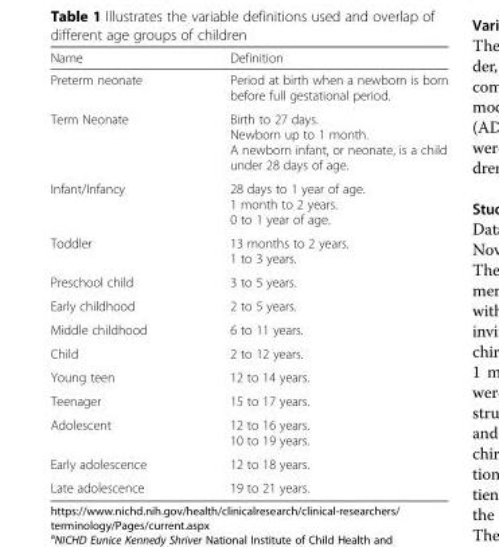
<table><thead><tr><td>Name</td><td>Definition</td></tr></thead><tbody><tr><td>Preterm neonate</td><td>Period at birth when a newborn is born before full gestational period.</td></tr><tr><td>Term Neonate</td><td>Birth to 27 days. Newborn up to 1 month. A newborn infant, or neonate, is a child under 28 days of age.</td></tr><tr><td>Infant/Infancy</td><td>28 days to 1 year of age. 1 month to 2 years. 0 to 1 year of age.</td></tr><tr><td>Toddler</td><td>13 months to 2 years. 1 to 3 years.</td></tr><tr><td>Preschool child</td><td>3 to 5 years.</td></tr><tr><td>Early childhood</td><td>2 to 5 years.</td></tr><tr><td>Middle childhood</td><td>6 to 11 years.</td></tr><tr><td>Child</td><td>2 to 12 years.</td></tr><tr><td>Young teen</td><td>12 to 14 years.</td></tr><tr><td>Teenager</td><td>15 to 17 years.</td></tr><tr><td>Adolescent</td><td>12 to 16 years. 10 to 19 years.</td></tr><tr><td>Early adolescence</td><td>12 to 18 years.</td></tr><tr><td>Late adolescence</td><td>19 to 21 years.</td></tr></tbody></table>